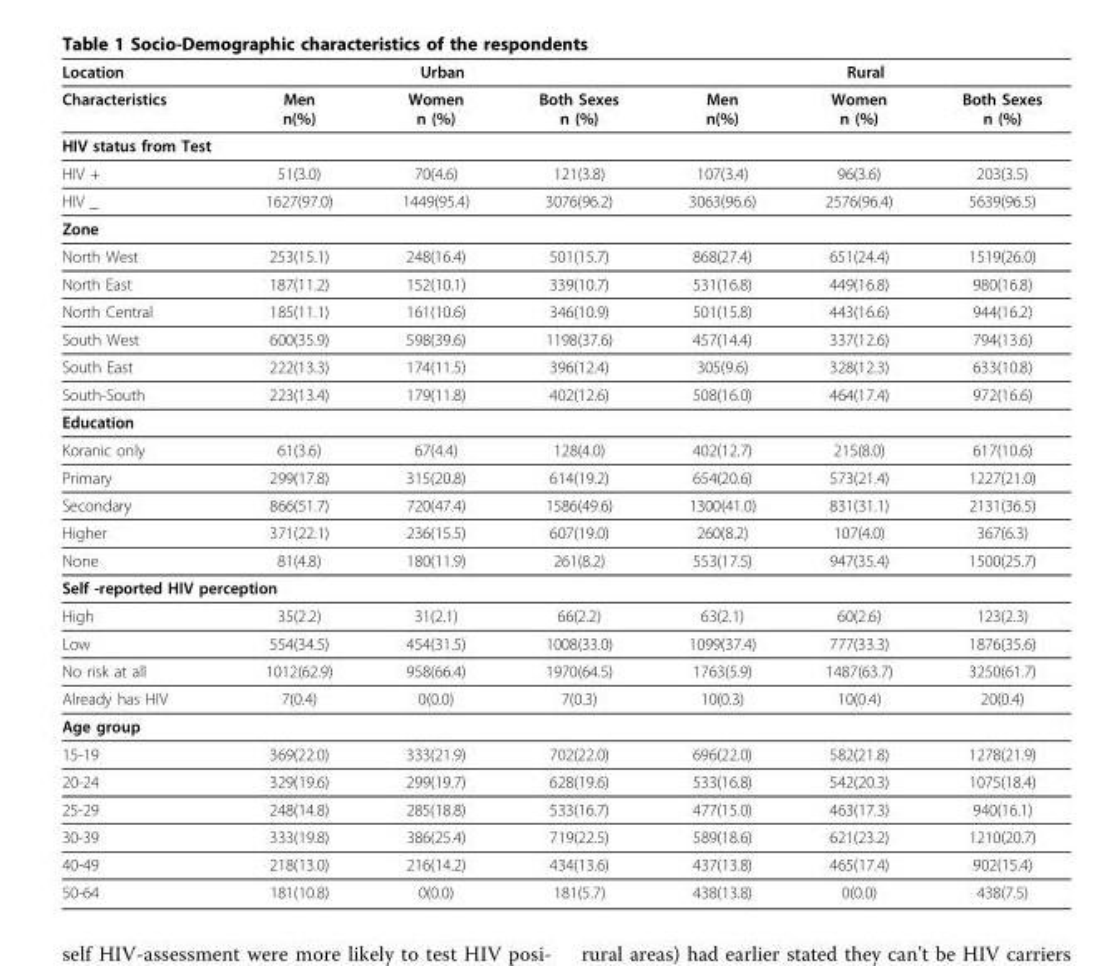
<table><thead><tr><td rowspan="2">Location Characteristics</td><td colspan="3">Urban</td><td colspan="3">Rural</td></tr><tr><td>Men n(%)</td><td>Women n (%)</td><td>Both Sexes n (%)</td><td>Men n(%)</td><td>Women n (%)</td><td>Both Sexes n (%)</td></tr></thead><tbody><tr><td colspan="7">HIV status from Test</td></tr><tr><td>HIV +</td><td>51(3.0)</td><td>70(4.6)</td><td>121(3.8)</td><td>107(3.4)</td><td>96(3.6)</td><td>203(3.5)</td></tr><tr><td>HIV _</td><td>1627(97.0)</td><td>1449(95.4)</td><td>3076(96.2)</td><td>3063(96.6)</td><td>2576(96.4)</td><td>5639(96.5)</td></tr><tr><td colspan="7">Zone</td></tr><tr><td>North West</td><td>253(15.1)</td><td>248(16.4)</td><td>501(15.7)</td><td>868(27.4)</td><td>651(24.4)</td><td>1519(26.0)</td></tr><tr><td>North East</td><td>187(11.2)</td><td>152(10.1)</td><td>339(10.7)</td><td>531(16.8)</td><td>449(16.8)</td><td>980(16.8)</td></tr><tr><td>North Central</td><td>185(11.1)</td><td>161(10.6)</td><td>346(10.9)</td><td>501(15.8)</td><td>443(16.6)</td><td>944(16.2)</td></tr><tr><td>South West</td><td>600(35.9)</td><td>598(39.6)</td><td>1198(37.6)</td><td>457(14.4)</td><td>337(12.6)</td><td>794(13.6)</td></tr><tr><td>South East</td><td>222(13.3)</td><td>174(11.5)</td><td>396(12.4)</td><td>305(9.6)</td><td>328(12.3)</td><td>633(10.8)</td></tr><tr><td>South-South</td><td>223(13.4)</td><td>179(11.8)</td><td>402(12.6)</td><td>508(16.0)</td><td>464(17.4)</td><td>972(16.6)</td></tr><tr><td colspan="7">Education</td></tr><tr><td>Koranic only</td><td>61(3.6)</td><td>67(4.4)</td><td>128(4.0)</td><td>402(12.7)</td><td>215(8.0)</td><td>617(10.6)</td></tr><tr><td>Primary</td><td>299(17.8)</td><td>315(20.8)</td><td>614(19.2)</td><td>654(20.6)</td><td>573(21.4)</td><td>1227(21.0)</td></tr><tr><td>Secondary</td><td>866(51.7)</td><td>720(47.4)</td><td>1586(49.6)</td><td>1300(41.0)</td><td>831(31.1)</td><td>2131(36.5)</td></tr><tr><td>Higher</td><td>371(22.1)</td><td>236(15.5)</td><td>607(19.0)</td><td>260(8.2)</td><td>107(4.0)</td><td>367(6.3)</td></tr><tr><td>None</td><td>81(4.8)</td><td>180(11.9)</td><td>261(8.2)</td><td>553(17.5)</td><td>947(35.4)</td><td>1500(25.7)</td></tr><tr><td colspan="7">Self -reported HIV perception</td></tr><tr><td>High</td><td>35(2.2)</td><td>31(2.1)</td><td>66(2.2)</td><td>63(2.1)</td><td>60(2.6)</td><td>123(2.3)</td></tr><tr><td>Low</td><td>554(34.5)</td><td>454(31.5)</td><td>1008(33.0)</td><td>1099(37.4)</td><td>777(33.3)</td><td>1876(35.6)</td></tr><tr><td>No risk at all</td><td>1012(62.9)</td><td>958(66.4)</td><td>1970(64.5)</td><td>1763(5.9)</td><td>1487(63.7)</td><td>3250(61.7)</td></tr><tr><td>Already has HIV</td><td>7(0.4)</td><td>0(0.0)</td><td>7(0.3)</td><td>10(0.3)</td><td>10(0.4)</td><td>20(0.4)</td></tr><tr><td colspan="7">Age group</td></tr><tr><td>15-19</td><td>369(22.0)</td><td>333(21.9)</td><td>702(22.0)</td><td>696(22.0)</td><td>582(21.8)</td><td>1278(21.9)</td></tr><tr><td>20-24</td><td>329(19.6)</td><td>299(19.7)</td><td>628(19.6)</td><td>533(16.8)</td><td>542(20.3)</td><td>1075(18.4)</td></tr><tr><td>25-29</td><td>248(14.8)</td><td>285(18.8)</td><td>533(16.7)</td><td>477(15.0)</td><td>463(17.3)</td><td>940(16.1)</td></tr><tr><td>30-39</td><td>333(19.8)</td><td>386(25.4)</td><td>719(22.5)</td><td>589(18.6)</td><td>621(23.2)</td><td>1210(20.7)</td></tr><tr><td>40-49</td><td>218(13.0)</td><td>216(14.2)</td><td>434(13.6)</td><td>437(13.8)</td><td>465(17.4)</td><td>902(15.4)</td></tr><tr><td>50-64</td><td>181(10.8)</td><td>0(0.0)</td><td>181(5.7)</td><td>438(13.8)</td><td>0(0.0)</td><td>438(7.5)</td></tr></tbody></table>